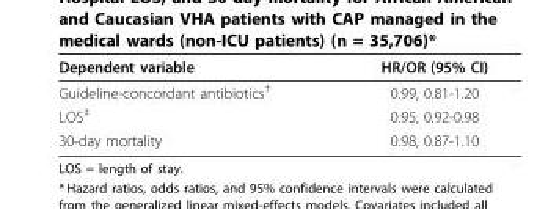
<table><thead><tr><td>Dependent variable</td><td>HR/OR (95% CI)</td></tr></thead><tbody><tr><td>Guideline-concordant antibiotics<sup>†</sup></td><td>0.99, 0.81-1.20</td></tr><tr><td>LOS<sup>‡</sup></td><td>0.95, 0.92-0.98</td></tr><tr><td>30-day mortality</td><td>0.98, 0.87-1.10</td></tr></tbody></table>